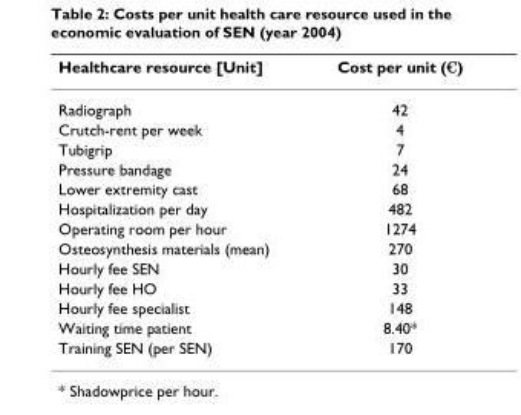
<table><thead><tr><td>Healthcare resource [Unit]</td><td>Cost per unit (€)</td></tr></thead><tbody><tr><td>Radiograph</td><td>42</td></tr><tr><td>Crutch-rent per week</td><td>4</td></tr><tr><td>Tubigrip</td><td>7</td></tr><tr><td>Pressure bandage</td><td>24</td></tr><tr><td>Lower extremity cast</td><td>68</td></tr><tr><td>Hospitalization per day</td><td>482</td></tr><tr><td>Operating room per hour</td><td>1274</td></tr><tr><td>Osteosynthesis materials (mean)</td><td>270</td></tr><tr><td>Hourly fee SEN</td><td>30</td></tr><tr><td>Hourly fee HO</td><td>33</td></tr><tr><td>Hourly fee specialist</td><td>148</td></tr><tr><td>Waiting time patient</td><td>8.40*</td></tr><tr><td>Training SEN (per SEN)</td><td>170</td></tr></tbody></table>